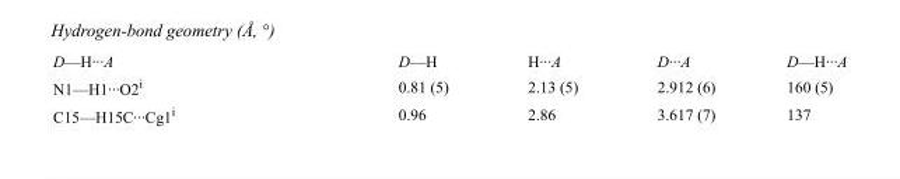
<table><tbody><tr><td>D—H···A</td><td>D—H</td><td>H···A</td><td>D···A</td><td>D—H···A</td></tr><tr><td>N1—H1···O2<sup>i</sup></td><td>0.81 (5)</td><td>2.13 (5)</td><td>2.912 (6)</td><td>160 (5)</td></tr><tr><td>C15—H15C···Cg1<sup>i</sup></td><td>0.96</td><td>2.86</td><td>3.617 (7)</td><td>137</td></tr></tbody></table>